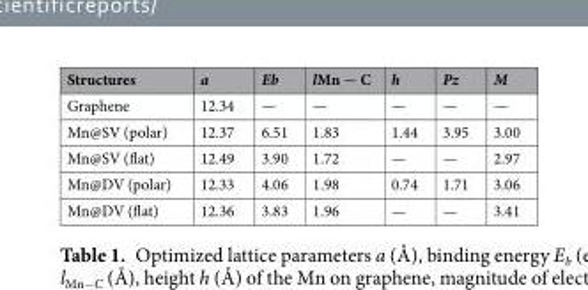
<table><thead><tr><td>Structures</td><td>a</td><td>Eb</td><td>lMn − C</td><td>h</td><td>Pz</td><td>M</td></tr></thead><tbody><tr><td>Graphene</td><td>12.34</td><td>—</td><td>—</td><td>—</td><td>—</td><td>—</td></tr><tr><td>Mn@SV (polar)</td><td>12.37</td><td>6.51</td><td>1.83</td><td>1.44</td><td>3.95</td><td>3.00</td></tr><tr><td>Mn@SV (flat)</td><td>12.49</td><td>3.90</td><td>1.72</td><td>—</td><td>—</td><td>2.97</td></tr><tr><td>Mn@DV (polar)</td><td>12.33</td><td>4.06</td><td>1.98</td><td>0.74</td><td>1.71</td><td>3.06</td></tr><tr><td>Mn@DV (flat)</td><td>12.36</td><td>3.83</td><td>1.96</td><td>—</td><td>—</td><td>3.41</td></tr></tbody></table>